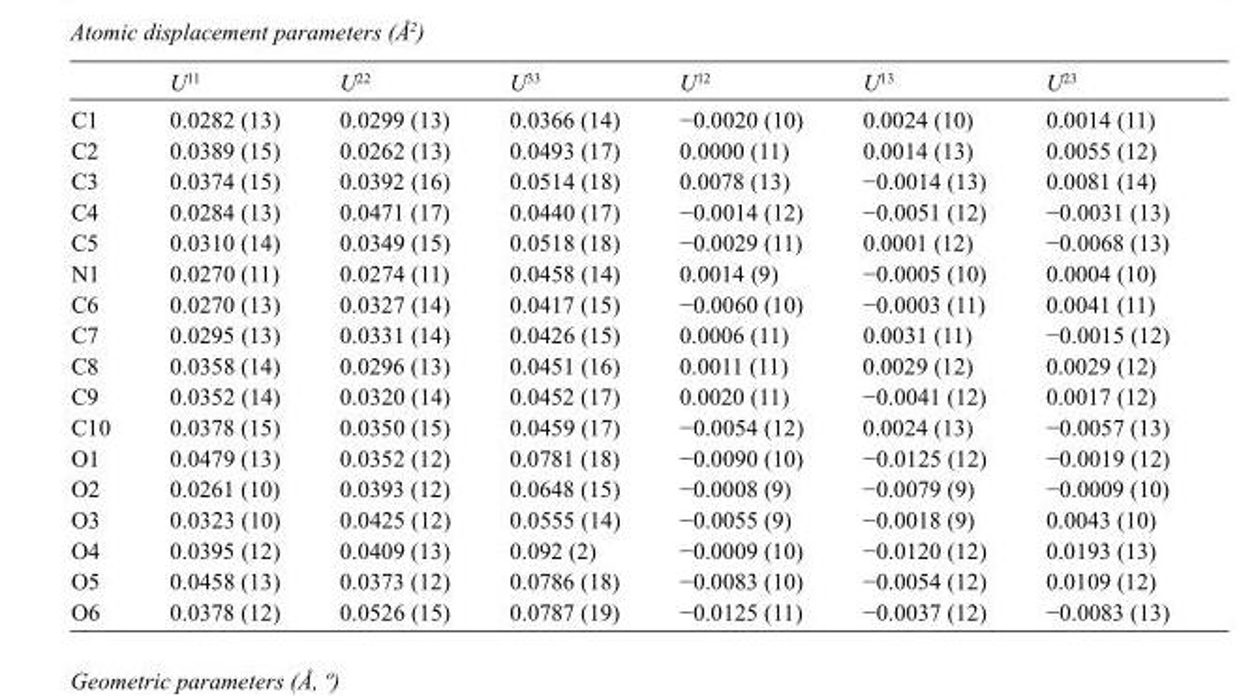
<table><thead><tr><td></td><td>U<sup>11</sup></td><td>U<sup>22</sup></td><td>U<sup>33</sup></td><td>U<sup>12</sup></td><td>U<sup>13</sup></td><td>U<sup>23</sup></td></tr></thead><tbody><tr><td>C1</td><td>0.0282 (13)</td><td>0.0299 (13)</td><td>0.0366 (14)</td><td>−0.0020 (10)</td><td>0.0024 (10)</td><td>0.0014 (11)</td></tr><tr><td>C2</td><td>0.0389 (15)</td><td>0.0262 (13)</td><td>0.0493 (17)</td><td>0.0000 (11)</td><td>0.0014 (13)</td><td>0.0055 (12)</td></tr><tr><td>C3</td><td>0.0374 (15)</td><td>0.0392 (16)</td><td>0.0514 (18)</td><td>0.0078 (13)</td><td>−0.0014 (13)</td><td>0.0081 (14)</td></tr><tr><td>C4</td><td>0.0284 (13)</td><td>0.0471 (17)</td><td>0.0440 (17)</td><td>−0.0014 (12)</td><td>−0.0051 (12)</td><td>−0.0031 (13)</td></tr><tr><td>C5</td><td>0.0310 (14)</td><td>0.0349 (15)</td><td>0.0518 (18)</td><td>−0.0029 (11)</td><td>0.0001 (12)</td><td>−0.0068 (13)</td></tr><tr><td>N1</td><td>0.0270 (11)</td><td>0.0274 (11)</td><td>0.0458 (14)</td><td>0.0014 (9)</td><td>−0.0005 (10)</td><td>0.0004 (10)</td></tr><tr><td>C6</td><td>0.0270 (13)</td><td>0.0327 (14)</td><td>0.0417 (15)</td><td>−0.0060 (10)</td><td>−0.0003 (11)</td><td>0.0041 (11)</td></tr><tr><td>C7</td><td>0.0295 (13)</td><td>0.0331 (14)</td><td>0.0426 (15)</td><td>0.0006 (11)</td><td>0.0031 (11)</td><td>−0.0015 (12)</td></tr><tr><td>C8</td><td>0.0358 (14)</td><td>0.0296 (13)</td><td>0.0451 (16)</td><td>0.0011 (11)</td><td>0.0029 (12)</td><td>0.0029 (12)</td></tr><tr><td>C9</td><td>0.0352 (14)</td><td>0.0320 (14)</td><td>0.0452 (17)</td><td>0.0020 (11)</td><td>−0.0041 (12)</td><td>0.0017 (12)</td></tr><tr><td>C10</td><td>0.0378 (15)</td><td>0.0350 (15)</td><td>0.0459 (17)</td><td>−0.0054 (12)</td><td>0.0024 (13)</td><td>−0.0057 (13)</td></tr><tr><td>O1</td><td>0.0479 (13)</td><td>0.0352 (12)</td><td>0.0781 (18)</td><td>−0.0090 (10)</td><td>−0.0125 (12)</td><td>−0.0019 (12)</td></tr><tr><td>O2</td><td>0.0261 (10)</td><td>0.0393 (12)</td><td>0.0648 (15)</td><td>−0.0008 (9)</td><td>−0.0079 (9)</td><td>−0.0009 (10)</td></tr><tr><td>O3</td><td>0.0323 (10)</td><td>0.0425 (12)</td><td>0.0555 (14)</td><td>−0.0055 (9)</td><td>−0.0018 (9)</td><td>0.0043 (10)</td></tr><tr><td>O4</td><td>0.0395 (12)</td><td>0.0409 (13)</td><td>0.092 (2)</td><td>−0.0009 (10)</td><td>−0.0120 (12)</td><td>0.0193 (13)</td></tr><tr><td>O5</td><td>0.0458 (13)</td><td>0.0373 (12)</td><td>0.0786 (18)</td><td>−0.0083 (10)</td><td>−0.0054 (12)</td><td>0.0109 (12)</td></tr><tr><td>O6</td><td>0.0378 (12)</td><td>0.0526 (15)</td><td>0.0787 (19)</td><td>−0.0125 (11)</td><td>−0.0037 (12)</td><td>−0.0083 (13)</td></tr></tbody></table>